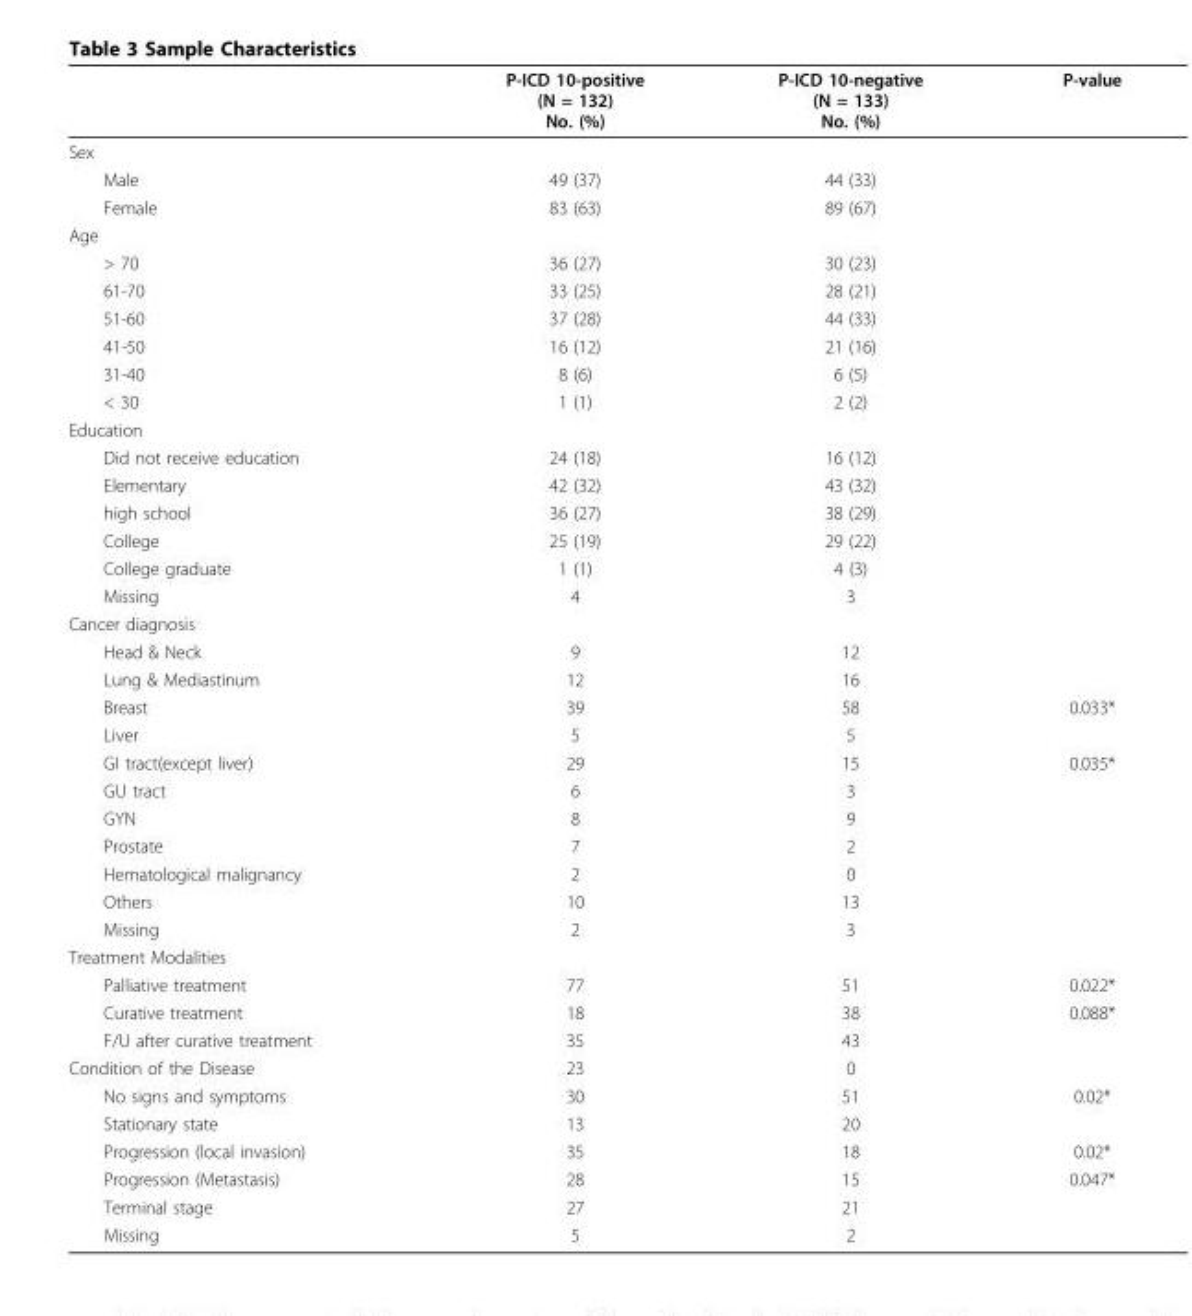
<table><thead><tr><td></td><td>P-ICD 10-positive (N = 132) No. (%)</td><td>P-ICD 10-negative (N = 133) No. (%)</td><td>P-value</td></tr></thead><tbody><tr><td colspan="4">Sex</td></tr><tr><td>Male</td><td>49 (37)</td><td>44 (33)</td><td></td></tr><tr><td>Female</td><td>83 (63)</td><td>89 (67)</td><td></td></tr><tr><td colspan="4">Age</td></tr><tr><td>&gt; 70</td><td>36 (27)</td><td>30 (23)</td><td></td></tr><tr><td>61-70</td><td>33 (25)</td><td>28 (21)</td><td></td></tr><tr><td>51-60</td><td>37 (28)</td><td>44 (33)</td><td></td></tr><tr><td>41-50</td><td>16 (12)</td><td>21 (16)</td><td></td></tr><tr><td>31-40</td><td>8 (6)</td><td>6 (5)</td><td></td></tr><tr><td>&lt; 30</td><td>1 (1)</td><td>2 (2)</td><td></td></tr><tr><td colspan="4">Education</td></tr><tr><td>Did not receive education</td><td>24 (18)</td><td>16 (12)</td><td></td></tr><tr><td>Elementary</td><td>42 (32)</td><td>43 (32)</td><td></td></tr><tr><td>high school</td><td>36 (27)</td><td>38 (29)</td><td></td></tr><tr><td>College</td><td>25 (19)</td><td>29 (22)</td><td></td></tr><tr><td>College graduate</td><td>1 (1)</td><td>4 (3)</td><td></td></tr><tr><td>Missing</td><td>4</td><td>3</td><td></td></tr><tr><td colspan="4">Cancer diagnosis</td></tr><tr><td>Head &amp; Neck</td><td>9</td><td>12</td><td></td></tr><tr><td>Lung &amp; Mediastinum</td><td>12</td><td>16</td><td></td></tr><tr><td>Breast</td><td>39</td><td>58</td><td>0.033*</td></tr><tr><td>Liver</td><td>5</td><td>5</td><td></td></tr><tr><td>GI tract(except liver)</td><td>29</td><td>15</td><td>0.035*</td></tr><tr><td>GU tract</td><td>6</td><td>3</td><td></td></tr><tr><td>GYN</td><td>8</td><td>9</td><td></td></tr><tr><td>Prostate</td><td>7</td><td>2</td><td></td></tr><tr><td>Hematological malignancy</td><td>2</td><td>0</td><td></td></tr><tr><td>Others</td><td>10</td><td>13</td><td></td></tr><tr><td>Missing</td><td>2</td><td>3</td><td></td></tr><tr><td colspan="4">Treatment Modalities</td></tr><tr><td>Palliative treatment</td><td>77</td><td>51</td><td>0.022*</td></tr><tr><td>Curative treatment</td><td>18</td><td>38</td><td>0.088*</td></tr><tr><td>F/U after curative treatment</td><td>35</td><td>43</td><td></td></tr><tr><td>Condition of the Disease</td><td>23</td><td>0</td><td></td></tr><tr><td>No signs and symptoms</td><td>30</td><td>51</td><td>0.02*</td></tr><tr><td>Stationary state</td><td>13</td><td>20</td><td></td></tr><tr><td>Progression (local invasion)</td><td>35</td><td>18</td><td>0.02*</td></tr><tr><td>Progression (Metastasis)</td><td>28</td><td>15</td><td>0.047*</td></tr><tr><td>Terminal stage</td><td>27</td><td>21</td><td></td></tr><tr><td>Missing</td><td>5</td><td>2</td><td></td></tr></tbody></table>